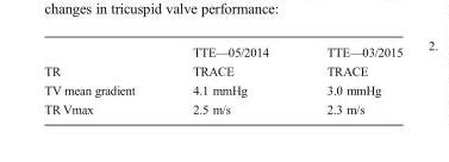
<table><thead><tr><td></td><td>TTE—05/2014</td><td>TTE—03/2015</td></tr></thead><tbody><tr><td>TR</td><td>TRACE</td><td>TRACE</td></tr><tr><td>TV mean gradient</td><td>4.1 mmHg</td><td>3.0 mmHg</td></tr><tr><td>TR Vmax</td><td>2.5 m/s</td><td>2.3 m/s</td></tr></tbody></table>